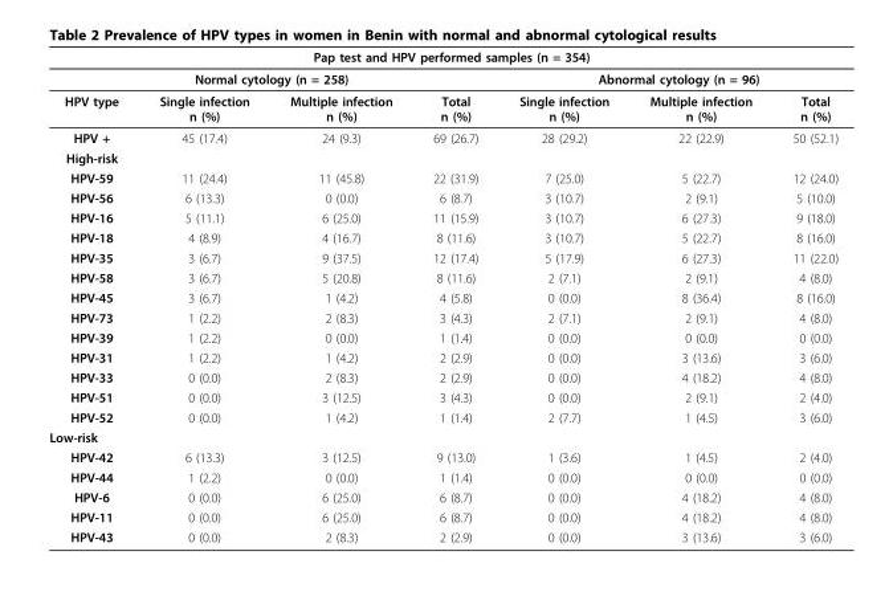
<table><thead><tr><td colspan="7">Pap test and HPV performed samples (n = 354)</td></tr><tr><td colspan="4">Normal cytology (n = 258)</td><td colspan="3">Abnormal cytology (n = 96)</td></tr><tr><td>HPV type</td><td>Single infection n (%)</td><td>Multiple infection n (%)</td><td>Total n (%)</td><td>Single infection n (%)</td><td>Multiple infection n (%)</td><td>Total n (%)</td></tr></thead><tbody><tr><td>HPV +</td><td>45 (17.4)</td><td>24 (9.3)</td><td>69 (26.7)</td><td>28 (29.2)</td><td>22 (22.9)</td><td>50 (52.1)</td></tr><tr><td colspan="7">High-risk</td></tr><tr><td>HPV-59</td><td>11 (24.4)</td><td>11 (45.8)</td><td>22 (31.9)</td><td>7 (25.0)</td><td>5 (22.7)</td><td>12 (24.0)</td></tr><tr><td>HPV-56</td><td>6 (13.3)</td><td>0 (0.0)</td><td>6 (8.7)</td><td>3 (10.7)</td><td>2 (9.1)</td><td>5 (10.0)</td></tr><tr><td>HPV-16</td><td>5 (11.1)</td><td>6 (25.0)</td><td>11 (15.9)</td><td>3 (10.7)</td><td>6 (27.3)</td><td>9 (18.0)</td></tr><tr><td>HPV-18</td><td>4 (8.9)</td><td>4 (16.7)</td><td>8 (11.6)</td><td>3 (10.7)</td><td>5 (22.7)</td><td>8 (16.0)</td></tr><tr><td>HPV-35</td><td>3 (6.7)</td><td>9 (37.5)</td><td>12 (17.4)</td><td>5 (17.9)</td><td>6 (27.3)</td><td>11 (22.0)</td></tr><tr><td>HPV-58</td><td>3 (6.7)</td><td>5 (20.8)</td><td>8 (11.6)</td><td>2 (7.1)</td><td>2 (9.1)</td><td>4 (8.0)</td></tr><tr><td>HPV-45</td><td>3 (6.7)</td><td>1 (4.2)</td><td>4 (5.8)</td><td>0 (0.0)</td><td>8 (36.4)</td><td>8 (16.0)</td></tr><tr><td>HPV-73</td><td>1 (2.2)</td><td>2 (8.3)</td><td>3 (4.3)</td><td>2 (7.1)</td><td>2 (9.1)</td><td>4 (8.0)</td></tr><tr><td>HPV-39</td><td>1 (2.2)</td><td>0 (0.0)</td><td>1 (1.4)</td><td>0 (0.0)</td><td>0 (0.0)</td><td>0 (0.0)</td></tr><tr><td>HPV-31</td><td>1 (2.2)</td><td>1 (4.2)</td><td>2 (2.9)</td><td>0 (0.0)</td><td>3 (13.6)</td><td>3 (6.0)</td></tr><tr><td>HPV-33</td><td>0 (0.0)</td><td>2 (8.3)</td><td>2 (2.9)</td><td>0 (0.0)</td><td>4 (18.2)</td><td>4 (8.0)</td></tr><tr><td>HPV-51</td><td>0 (0.0)</td><td>3 (12.5)</td><td>3 (4.3)</td><td>0 (0.0)</td><td>2 (9.1)</td><td>2 (4.0)</td></tr><tr><td>HPV-52</td><td>0 (0.0)</td><td>1 (4.2)</td><td>1 (1.4)</td><td>2 (7.7)</td><td>1 (4.5)</td><td>3 (6.0)</td></tr><tr><td colspan="7">Low-risk</td></tr><tr><td>HPV-42</td><td>6 (13.3)</td><td>3 (12.5)</td><td>9 (13.0)</td><td>1 (3.6)</td><td>1 (4.5)</td><td>2 (4.0)</td></tr><tr><td>HPV-44</td><td>1 (2.2)</td><td>0 (0.0)</td><td>1 (1.4)</td><td>0 (0.0)</td><td>0 (0.0)</td><td>0 (0.0)</td></tr><tr><td>HPV-6</td><td>0 (0.0)</td><td>6 (25.0)</td><td>6 (8.7)</td><td>0 (0.0)</td><td>4 (18.2)</td><td>4 (8.0)</td></tr><tr><td>HPV-11</td><td>0 (0.0)</td><td>6 (25.0)</td><td>6 (8.7)</td><td>0 (0.0)</td><td>4 (18.2)</td><td>4 (8.0)</td></tr><tr><td>HPV-43</td><td>0 (0.0)</td><td>2 (8.3)</td><td>2 (2.9)</td><td>0 (0.0)</td><td>3 (13.6)</td><td>3 (6.0)</td></tr></tbody></table>